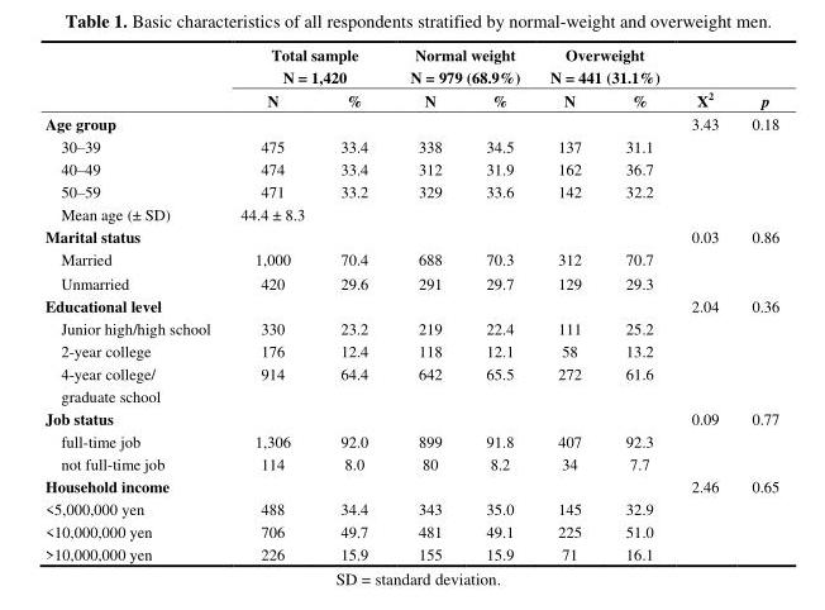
<table><thead><tr><td rowspan="2"></td><td colspan="2">Total sample N = 1,420</td><td colspan="2">Normal weight N = 979 (68.9%)</td><td colspan="2">Overweight N = 441 (31.1%)</td><td rowspan="2">X<sup>2</sup></td><td rowspan="2">p</td></tr><tr><td>N</td><td>%</td><td>N</td><td>%</td><td>N</td><td>%</td></tr></thead><tbody><tr><td>Age group</td><td></td><td></td><td></td><td></td><td></td><td></td><td>3.43</td><td>0.18</td></tr><tr><td>30–39</td><td>475</td><td>33.4</td><td>338</td><td>34.5</td><td>137</td><td>31.1</td><td></td><td></td></tr><tr><td>40–49</td><td>474</td><td>33.4</td><td>312</td><td>31.9</td><td>162</td><td>36.7</td><td></td><td></td></tr><tr><td>50–59</td><td>471</td><td>33.2</td><td>329</td><td>33.6</td><td>142</td><td>32.2</td><td></td><td></td></tr><tr><td>Mean age (± SD)</td><td>44.4 ± 8.3</td><td></td><td></td><td></td><td></td><td></td><td></td><td></td></tr><tr><td>Marital status</td><td></td><td></td><td></td><td></td><td></td><td></td><td>0.03</td><td>0.86</td></tr><tr><td>Married</td><td>1,000</td><td>70.4</td><td>688</td><td>70.3</td><td>312</td><td>70.7</td><td></td><td></td></tr><tr><td>Unmarried</td><td>420</td><td>29.6</td><td>291</td><td>29.7</td><td>129</td><td>29.3</td><td></td><td></td></tr><tr><td>Educational level</td><td></td><td></td><td></td><td></td><td></td><td></td><td>2.04</td><td>0.36</td></tr><tr><td>Junior high/high school</td><td>330</td><td>23.2</td><td>219</td><td>22.4</td><td>111</td><td>25.2</td><td></td><td></td></tr><tr><td>2-year college</td><td>176</td><td>12.4</td><td>118</td><td>12.1</td><td>58</td><td>13.2</td><td></td><td></td></tr><tr><td>4-year college/ graduate school</td><td>914</td><td>64.4</td><td>642</td><td>65.5</td><td>272</td><td>61.6</td><td></td><td></td></tr><tr><td>Job status</td><td></td><td></td><td></td><td></td><td></td><td></td><td>0.09</td><td>0.77</td></tr><tr><td>full-time job</td><td>1,306</td><td>92.0</td><td>899</td><td>91.8</td><td>407</td><td>92.3</td><td></td><td></td></tr><tr><td>not full-time job</td><td>114</td><td>8.0</td><td>80</td><td>8.2</td><td>34</td><td>7.7</td><td></td><td></td></tr><tr><td>Household income</td><td></td><td></td><td></td><td></td><td></td><td></td><td>2.46</td><td>0.65</td></tr><tr><td>&lt;5,000,000 yen</td><td>488</td><td>34.4</td><td>343</td><td>35.0</td><td>145</td><td>32.9</td><td></td><td></td></tr><tr><td>&lt;10,000,000 yen</td><td>706</td><td>49.7</td><td>481</td><td>49.1</td><td>225</td><td>51.0</td><td></td><td></td></tr><tr><td>&gt;10,000,000 yen</td><td>226</td><td>15.9</td><td>155</td><td>15.9</td><td>71</td><td>16.1</td><td></td><td></td></tr></tbody></table>